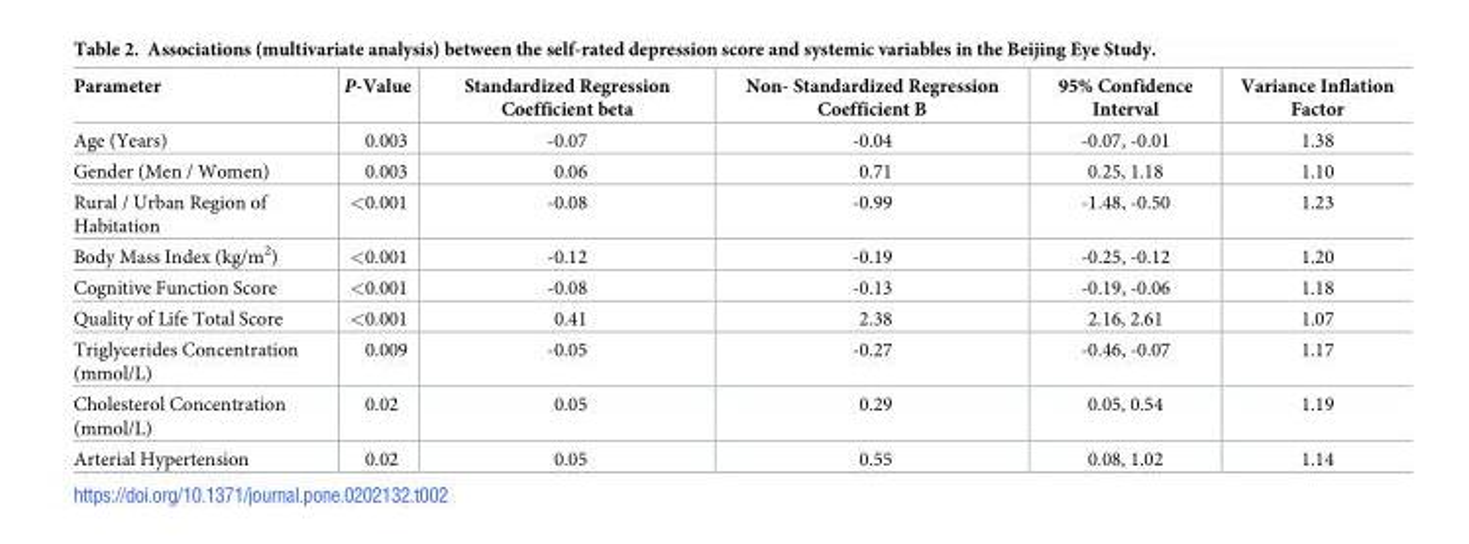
<table><thead><tr><td>Parameter</td><td>P-Value</td><td>Standardized Regression Coefficient beta</td><td>Non- Standardized Regression Coefficient B</td><td>95% Confidence Interval</td><td>Variance Inflation Factor</td></tr></thead><tbody><tr><td>Age (Years)</td><td>0.003</td><td>-0.07</td><td>-0.04</td><td>-0.07, -0.01</td><td>1.38</td></tr><tr><td>Gender (Men / Women)</td><td>0.003</td><td>0.06</td><td>0.71</td><td>0.25, 1.18</td><td>1.10</td></tr><tr><td>Rural / Urban Region of Habitation</td><td>&lt;0.001</td><td>-0.08</td><td>-0.99</td><td>-1.48, -0.50</td><td>1.23</td></tr><tr><td>Body Mass Index (kg/m<sup>2</sup>)</td><td>&lt;0.001</td><td>-0.12</td><td>-0.19</td><td>-0.25, -0.12</td><td>1.20</td></tr><tr><td>Cognitive Function Score</td><td>&lt;0.001</td><td>-0.08</td><td>-0.13</td><td>-0.19, -0.06</td><td>1.18</td></tr><tr><td>Quality of Life Total Score</td><td>&lt;0.001</td><td>0.41</td><td>2.38</td><td>2.16, 2.61</td><td>1.07</td></tr><tr><td>Triglycerides Concentration (mmol/L)</td><td>0.009</td><td>-0.05</td><td>-0.27</td><td>-0.46, -0.07</td><td>1.17</td></tr><tr><td>Cholesterol Concentration (mmol/L)</td><td>0.02</td><td>0.05</td><td>0.29</td><td>0.05, 0.54</td><td>1.19</td></tr><tr><td>Arterial Hypertension</td><td>0.02</td><td>0.05</td><td>0.55</td><td>0.08, 1.02</td><td>1.14</td></tr></tbody></table>